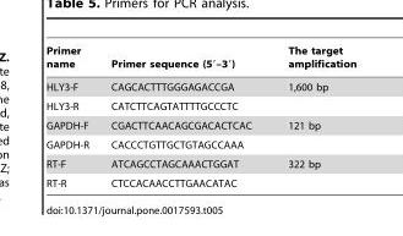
<table><thead><tr><td>Primer name</td><td>Primer sequence (5′–3′)</td><td>The target amplification</td></tr></thead><tbody><tr><td>HLY3-F</td><td>CAGCACTTTGGGAGACCGA</td><td>1,600 bp</td></tr><tr><td>HLY3-R</td><td>CATCTTCAGTATTTTGCCCTC</td><td></td></tr><tr><td>GAPDH-F</td><td>CGACTTCAACAGCGACACTCAC</td><td>121 bp</td></tr><tr><td>GAPDH-R</td><td>CACCCTGTTGCTGTAGCCAAA</td><td></td></tr><tr><td>RT-F</td><td>ATCAGCCTAGCAAACTGGAT</td><td>322 bp</td></tr><tr><td>RT-R</td><td>CTCCACAACCTTGAACATAC</td><td></td></tr></tbody></table>